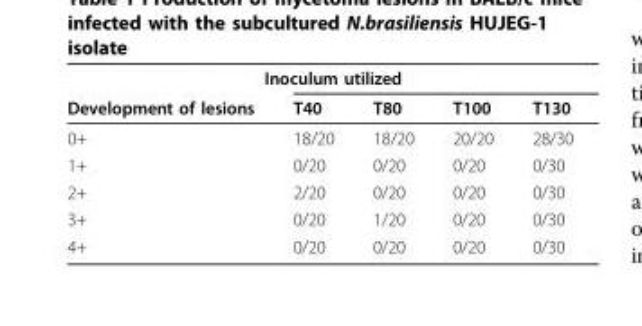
<table><thead><tr><td colspan="5">Inoculum utilized</td></tr><tr><td>Development of lesions</td><td>T40</td><td>T80</td><td>T100</td><td>T130</td></tr></thead><tbody><tr><td>0+</td><td>18/20</td><td>18/20</td><td>20/20</td><td>28/30</td></tr><tr><td>1+</td><td>0/20</td><td>0/20</td><td>0/20</td><td>0/30</td></tr><tr><td>2+</td><td>2/20</td><td>0/20</td><td>0/20</td><td>0/30</td></tr><tr><td>3+</td><td>0/20</td><td>1/20</td><td>0/20</td><td>0/30</td></tr><tr><td>4+</td><td>0/20</td><td>0/20</td><td>0/20</td><td>0/30</td></tr></tbody></table>